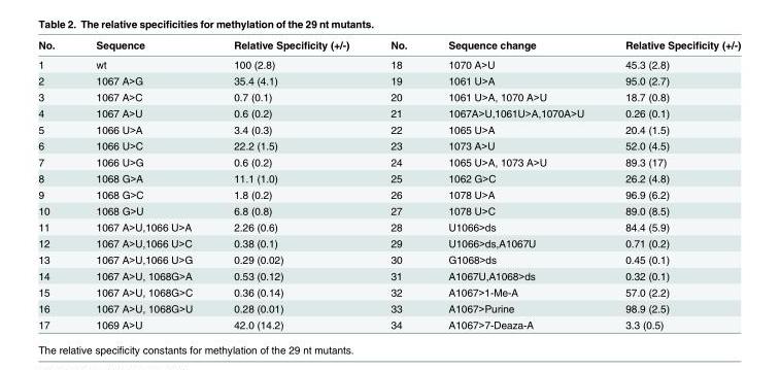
<table><thead><tr><td>No.</td><td>Sequence</td><td>Relative Specificity (+/-)</td><td>No.</td><td>Sequence change</td><td>Relative Specificity (+/-)</td></tr></thead><tbody><tr><td>1</td><td>wt</td><td>100 (2.8)</td><td>18</td><td>1070 A&gt;U</td><td>45.3 (2.8)</td></tr><tr><td>2</td><td>1067 A&gt;G</td><td>35.4 (4.1)</td><td>19</td><td>1061 U&gt;A</td><td>95.0 (2.7)</td></tr><tr><td>3</td><td>1067 A&gt;C</td><td>0.7 (0.1)</td><td>20</td><td>1061 U&gt;A, 1070 A&gt;U</td><td>18.7 (0.8)</td></tr><tr><td>4</td><td>1067 A&gt;U</td><td>0.6 (0.2)</td><td>21</td><td>1067A&gt;U,1061U&gt;A,1070A&gt;U</td><td>0.26 (0.1)</td></tr><tr><td>5</td><td>1066 U&gt;A</td><td>3.4 (0.3)</td><td>22</td><td>1065 U&gt;A</td><td>20.4 (1.5)</td></tr><tr><td>6</td><td>1066 U&gt;C</td><td>22.2 (1.5)</td><td>23</td><td>1073 A&gt;U</td><td>52.0 (4.5)</td></tr><tr><td>7</td><td>1066 U&gt;G</td><td>0.6 (0.2)</td><td>24</td><td>1065 U&gt;A, 1073 A&gt;U</td><td>89.3 (17)</td></tr><tr><td>8</td><td>1068 G&gt;A</td><td>11.1 (1.0)</td><td>25</td><td>1062 G&gt;C</td><td>26.2 (4.8)</td></tr><tr><td>9</td><td>1068 G&gt;C</td><td>1.8 (0.2)</td><td>26</td><td>1078 U&gt;A</td><td>96.9 (6.2)</td></tr><tr><td>10</td><td>1068 G&gt;U</td><td>6.8 (0.8)</td><td>27</td><td>1078 U&gt;C</td><td>89.0 (8.5)</td></tr><tr><td>11</td><td>1067 A&gt;U,1066 U&gt;A</td><td>2.26 (0.6)</td><td>28</td><td>U1066&gt;ds</td><td>84.4 (5.9)</td></tr><tr><td>12</td><td>1067 A&gt;U,1066 U&gt;C</td><td>0.38 (0.1)</td><td>29</td><td>U1066&gt;ds,A1067U</td><td>0.71 (0.2)</td></tr><tr><td>13</td><td>1067 A&gt;U,1066 U&gt;G</td><td>0.29 (0.02)</td><td>30</td><td>G1068&gt;ds</td><td>0.45 (0.1)</td></tr><tr><td>14</td><td>1067 A&gt;U, 1068G&gt;A</td><td>0.53 (0.12)</td><td>31</td><td>A1067U,A1068&gt;ds</td><td>0.32 (0.1)</td></tr><tr><td>15</td><td>1067 A&gt;U, 1068G&gt;C</td><td>0.36 (0.14)</td><td>32</td><td>A1067&gt;1-Me-A</td><td>57.0 (2.2)</td></tr><tr><td>16</td><td>1067 A&gt;U, 1068G&gt;U</td><td>0.28 (0.01)</td><td>33</td><td>A1067&gt;Purine</td><td>98.9 (2.5)</td></tr><tr><td>17</td><td>1069 A&gt;U</td><td>42.0 (14.2)</td><td>34</td><td>A1067&gt;7-Deaza-A</td><td>3.3 (0.5)</td></tr></tbody></table>